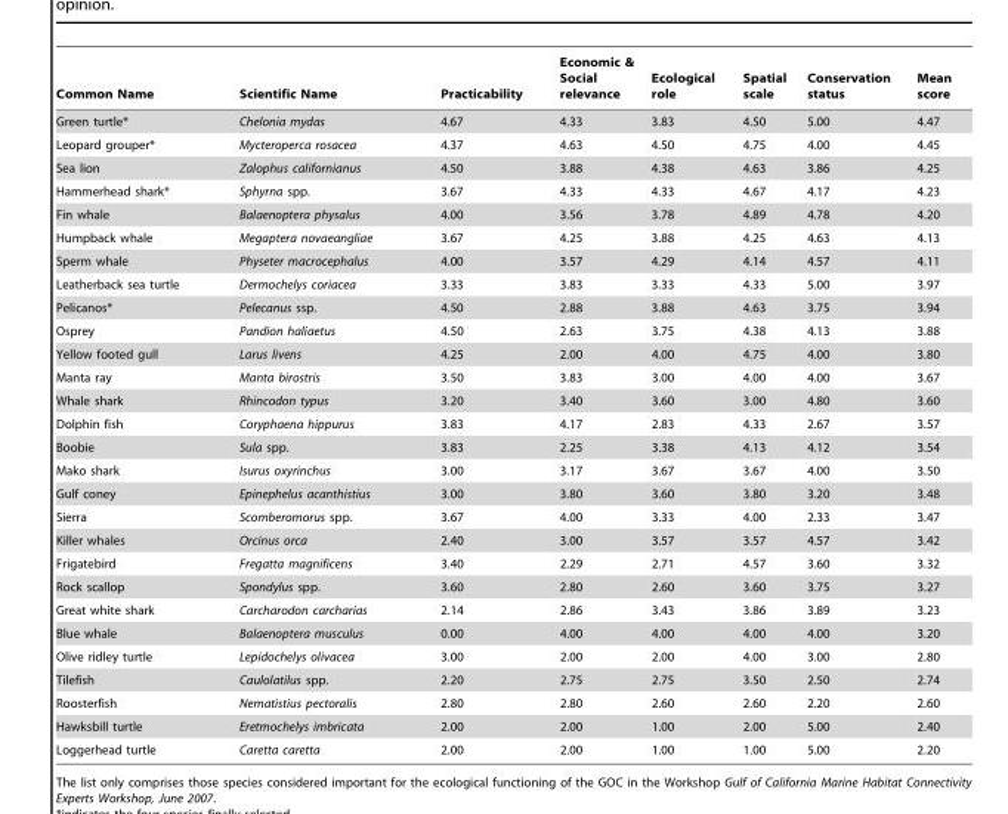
<table><thead><tr><td>Common Name</td><td>Scientific Name</td><td>Practicability</td><td>Economic &amp; Social relevance</td><td>Ecological role</td><td>Spatial scale</td><td>Conservation status</td><td>Mean score</td></tr></thead><tbody><tr><td>Green turtle*</td><td>Chelonia mydas</td><td>4.67</td><td>4.33</td><td>3.83</td><td>4.50</td><td>5.00</td><td>4.47</td></tr><tr><td>Leopard grouper*</td><td>Mycteroperca rosacea</td><td>4.37</td><td>4.63</td><td>4.50</td><td>4.75</td><td>4.00</td><td>4.45</td></tr><tr><td>Sea lion</td><td>Zalophus californianus</td><td>4.50</td><td>3.88</td><td>4.38</td><td>4.63</td><td>3.86</td><td>4.25</td></tr><tr><td>Hammerhead shark*</td><td>Sphyrna spp.</td><td>3.67</td><td>4.33</td><td>4.33</td><td>4.67</td><td>4.17</td><td>4.23</td></tr><tr><td>Fin whale</td><td>Balaenoptera physalus</td><td>4.00</td><td>3.56</td><td>3.78</td><td>4.89</td><td>4.78</td><td>4.20</td></tr><tr><td>Humpback whale</td><td>Megaptera novaeangliae</td><td>3.67</td><td>4.25</td><td>3.88</td><td>4.25</td><td>4.63</td><td>4.13</td></tr><tr><td>Sperm whale</td><td>Physeter macrocephalus</td><td>4.00</td><td>3.57</td><td>4.29</td><td>4.14</td><td>4.57</td><td>4.11</td></tr><tr><td>Leatherback sea turtle</td><td>Dermochelys coriacea</td><td>3.33</td><td>3.83</td><td>3.33</td><td>4.33</td><td>5.00</td><td>3.97</td></tr><tr><td>Pelicanos*</td><td>Pelecanus ssp.</td><td>4.50</td><td>2.88</td><td>3.88</td><td>4.63</td><td>3.75</td><td>3.94</td></tr><tr><td>Osprey</td><td>Pandion haliaetus</td><td>4.50</td><td>2.63</td><td>3.75</td><td>4.38</td><td>4.13</td><td>3.88</td></tr><tr><td>Yellow footed gull</td><td>Larus livens</td><td>4.25</td><td>2.00</td><td>4.00</td><td>4.75</td><td>4.00</td><td>3.80</td></tr><tr><td>Manta ray</td><td>Manta birostris</td><td>3.50</td><td>3.83</td><td>3.00</td><td>4.00</td><td>4.00</td><td>3.67</td></tr><tr><td>Whale shark</td><td>Rhincodon typus</td><td>3.20</td><td>3.40</td><td>3.60</td><td>3.00</td><td>4.80</td><td>3.60</td></tr><tr><td>Dolphin fish</td><td>Coryphaena hippurus</td><td>3.83</td><td>4.17</td><td>2.83</td><td>4.33</td><td>2.67</td><td>3.57</td></tr><tr><td>Boobie</td><td>Sula spp.</td><td>3.83</td><td>2.25</td><td>3.38</td><td>4.13</td><td>4.12</td><td>3.54</td></tr><tr><td>Mako shark</td><td>Isurus oxyrinchus</td><td>3.00</td><td>3.17</td><td>3.67</td><td>3.67</td><td>4.00</td><td>3.50</td></tr><tr><td>Gulf coney</td><td>Epinephelus acanthistius</td><td>3.00</td><td>3.80</td><td>3.60</td><td>3.80</td><td>3.20</td><td>3.48</td></tr><tr><td>Sierra</td><td>Scomberomorus spp.</td><td>3.67</td><td>4.00</td><td>3.33</td><td>4.00</td><td>2.33</td><td>3.47</td></tr><tr><td>Killer whales</td><td>Orcinus orca</td><td>2.40</td><td>3.00</td><td>3.57</td><td>3.57</td><td>4.57</td><td>3.42</td></tr><tr><td>Frigatebird</td><td>Fregatta magnificens</td><td>3.40</td><td>2.29</td><td>2.71</td><td>4.57</td><td>3.60</td><td>3.32</td></tr><tr><td>Rock scallop</td><td>Spondylus spp.</td><td>3.60</td><td>2.80</td><td>2.60</td><td>3.60</td><td>3.75</td><td>3.27</td></tr><tr><td>Great white shark</td><td>Carcharodon carcharias</td><td>2.14</td><td>2.86</td><td>3.43</td><td>3.86</td><td>3.89</td><td>3.23</td></tr><tr><td>Blue whale</td><td>Balaenoptera musculus</td><td>0.00</td><td>4.00</td><td>4.00</td><td>4.00</td><td>4.00</td><td>3.20</td></tr><tr><td>Olive ridley turtle</td><td>Lepidochelys olivacea</td><td>3.00</td><td>2.00</td><td>2.00</td><td>4.00</td><td>3.00</td><td>2.80</td></tr><tr><td>Tilefish</td><td>Caulolatilus spp.</td><td>2.20</td><td>2.75</td><td>2.75</td><td>3.50</td><td>2.50</td><td>2.74</td></tr><tr><td>Roosterfish</td><td>Nematistius pectoralis</td><td>2.80</td><td>2.80</td><td>2.60</td><td>2.60</td><td>2.20</td><td>2.60</td></tr><tr><td>Hawksbill turtle</td><td>Eretmochelys imbricata</td><td>2.00</td><td>2.00</td><td>1.00</td><td>2.00</td><td>5.00</td><td>2.40</td></tr><tr><td>Loggerhead turtle</td><td>Caretta caretta</td><td>2.00</td><td>2.00</td><td>1.00</td><td>1.00</td><td>5.00</td><td>2.20</td></tr></tbody></table>